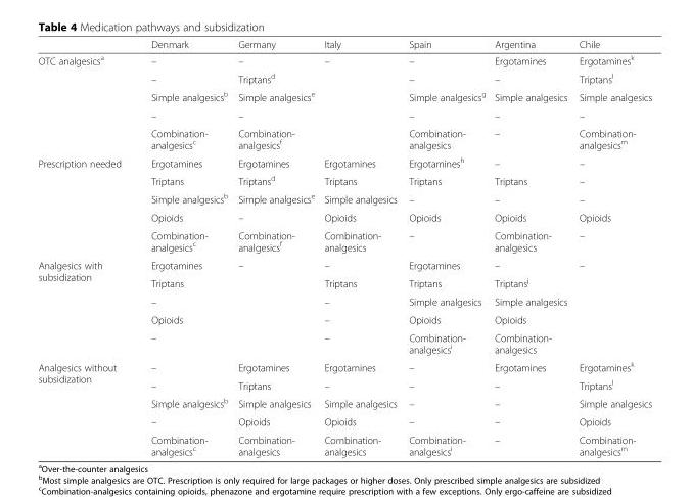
<table><thead><tr><td></td><td>Denmark</td><td>Germany</td><td>Italy</td><td>Spain</td><td>Argentina</td><td>Chile</td></tr></thead><tbody><tr><td rowspan="5">OTC analgesics<sup>a</sup></td><td>–</td><td>–</td><td rowspan="5">–</td><td>–</td><td>Ergotamines</td><td>Ergotamines<sup>k</sup></td></tr><tr><td>–</td><td>Triptans<sup>d</sup></td><td>–</td><td>–</td><td>Triptans<sup>l</sup></td></tr><tr><td>Simple analgesics<sup>b</sup></td><td>Simple analgesics<sup>e</sup></td><td>Simple analgesics<sup>g</sup></td><td>Simple analgesics</td><td>Simple analgesics</td></tr><tr><td>–</td><td>–</td><td>–</td><td>–</td><td>–</td></tr><tr><td>Combination- analgesics<sup>c</sup></td><td>Combination- analgesics<sup>f</sup></td><td>Combination- analgesics</td><td>–</td><td>Combination- analgesics<sup>m</sup></td></tr><tr><td rowspan="5">Prescription needed</td><td>Ergotamines</td><td>Ergotamines</td><td>Ergotamines</td><td>Ergotamines<sup>h</sup></td><td>–</td><td>–</td></tr><tr><td>Triptans</td><td>Triptans<sup>d</sup></td><td>Triptans</td><td>Triptans</td><td>Triptans</td><td>–</td></tr><tr><td>Simple analgesics<sup>b</sup></td><td>Simple analgesics<sup>e</sup></td><td>Simple analgesics</td><td>–</td><td>–</td><td>–</td></tr><tr><td>Opioids</td><td>–</td><td>Opioids</td><td>Opioids</td><td>Opioids</td><td>Opioids</td></tr><tr><td>Combination- analgesics<sup>c</sup></td><td>Combination- analgesics<sup>f</sup></td><td>Combination- analgesics</td><td>–</td><td>Combination- analgesics</td><td>–</td></tr><tr><td rowspan="5">Analgesics with subsidization</td><td>Ergotamines</td><td rowspan="5">–</td><td>–</td><td>Ergotamines</td><td>–</td><td rowspan="5">–</td></tr><tr><td>Triptans</td><td>Triptans</td><td>Triptans</td><td>Triptans<sup>j</sup></td></tr><tr><td>–</td><td>–</td><td>Simple analgesics</td><td>Simple analgesics</td></tr><tr><td>Opioids</td><td>–</td><td>Opioids</td><td>Opioids</td></tr><tr><td>–</td><td>–</td><td>Combination- analgesics<sup>i</sup></td><td>Combination- analgesics</td></tr><tr><td rowspan="5">Analgesics without subsidization</td><td>–</td><td>Ergotamines</td><td>Ergotamines</td><td>–</td><td>Ergotamines</td><td>Ergotamines<sup>k</sup></td></tr><tr><td>–</td><td>Triptans</td><td>–</td><td>–</td><td>–</td><td>Triptans<sup>l</sup></td></tr><tr><td>Simple analgesics<sup>b</sup></td><td>Simple analgesics</td><td>Simple analgesics</td><td>–</td><td>–</td><td>Simple analgesics</td></tr><tr><td>–</td><td>Opioids</td><td>Opioids</td><td>–</td><td>–</td><td>Opioids</td></tr><tr><td>Combination- analgesics<sup>c</sup></td><td>Combination- analgesics</td><td>Combination- analgesics</td><td>Combination- analgesics<sup>i</sup></td><td>–</td><td>Combination- analgesics<sup>m</sup></td></tr></tbody></table>